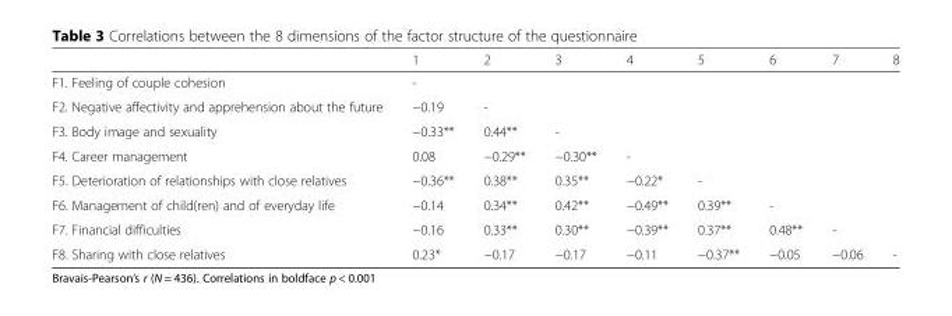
<table><thead><tr><td></td><td>1</td><td>2</td><td>3</td><td>4</td><td>5</td><td>6</td><td>7</td><td>8</td></tr></thead><tbody><tr><td>F1. Feeling of couple cohesion</td><td>-</td><td></td><td></td><td></td><td></td><td></td><td></td><td></td></tr><tr><td>F2. Negative affectivity and apprehension about the future</td><td>−0.19</td><td>-</td><td></td><td></td><td></td><td></td><td></td><td></td></tr><tr><td>F3. Body image and sexuality</td><td>−0.33**</td><td>0.44**</td><td>-</td><td></td><td></td><td></td><td></td><td></td></tr><tr><td>F4. Career management</td><td>0.08</td><td>−0.29**</td><td>−0.30**</td><td>-</td><td></td><td></td><td></td><td></td></tr><tr><td>F5. Deterioration of relationships with close relatives</td><td>−0.36**</td><td>0.38**</td><td>0.35**</td><td>−0.22*</td><td>-</td><td></td><td></td><td></td></tr><tr><td>F6. Management of child(ren) and of everyday life</td><td>−0.14</td><td>0.34**</td><td>0.42**</td><td>−0.49**</td><td>0.39**</td><td>-</td><td></td><td></td></tr><tr><td>F7. Financial difficulties</td><td>−0.16</td><td>0.33**</td><td>0.30**</td><td>−0.39**</td><td>0.37**</td><td>0.48**</td><td>-</td><td></td></tr><tr><td>F8. Sharing with close relatives</td><td>0.23*</td><td>−0.17</td><td>−0.17</td><td>−0.11</td><td>−0.37**</td><td>−0.05</td><td>−0.06</td><td>-</td></tr></tbody></table>